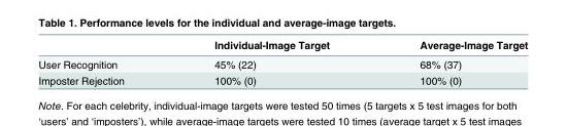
<table><thead><tr><td></td><td>Individual-Image Target</td><td>Average-Image Target</td></tr></thead><tbody><tr><td>User Recognition</td><td>45% (22)</td><td>68% (37)</td></tr><tr><td>Imposter Rejection</td><td>100% (0)</td><td>100% (0)</td></tr></tbody></table>